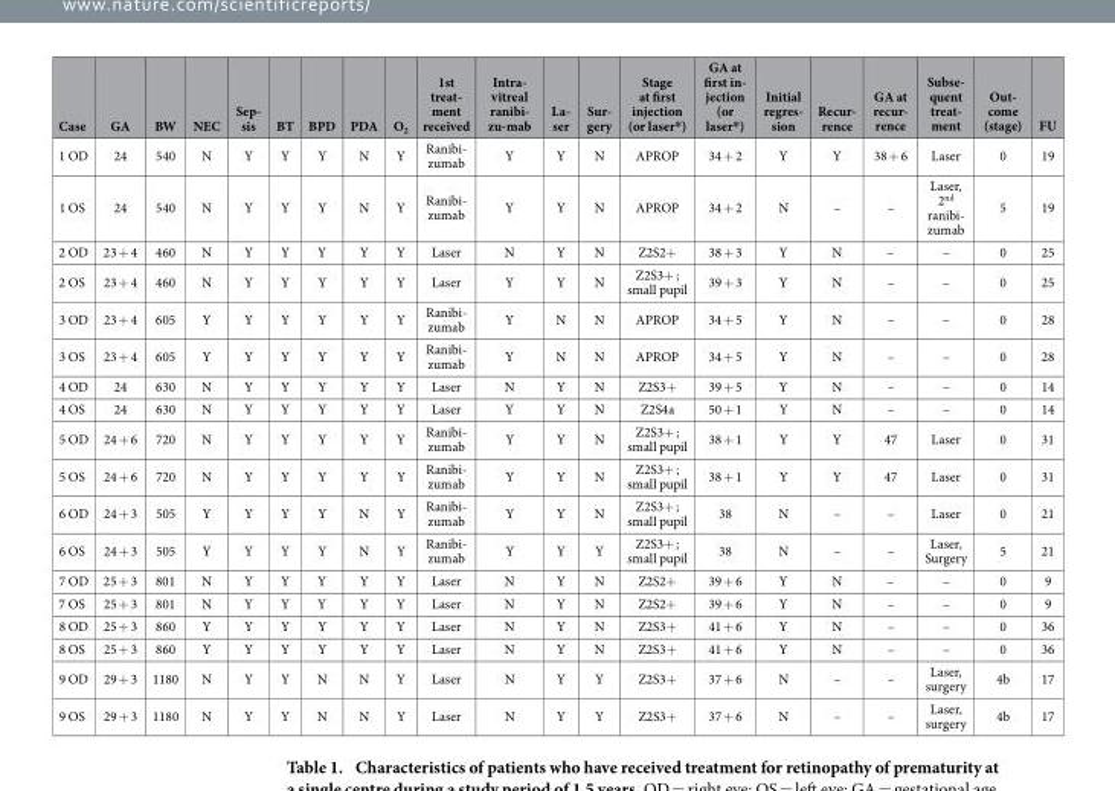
<table><thead><tr><td>Case</td><td>GA</td><td>BW</td><td>NEC</td><td>Sep- sis</td><td>BT</td><td>BPD</td><td>PDA</td><td>O<sub>2</sub></td><td>1st treat- ment received</td><td>Intra- vitreal ranibi- zu-mab</td><td>La- ser</td><td>Sur- gery</td><td>Stage at first injection (or laser*)</td><td>GA at first in- jection (or laser*)</td><td>Initial regres- sion</td><td>Recur- rence</td><td>GA at recur- rence</td><td>Subse- quent treat- ment</td><td>Out- come (stage)</td><td>FU</td></tr></thead><tbody><tr><td>1 OD</td><td>24</td><td>540</td><td>N</td><td>Y</td><td>Y</td><td>Y</td><td>N</td><td>Y</td><td>Ranibi- zumab</td><td>Y</td><td>Y</td><td>N</td><td>APROP</td><td>34 + 2</td><td>Y</td><td>Y</td><td>38 + 6</td><td>Laser</td><td>0</td><td>19</td></tr><tr><td>1 OS</td><td>24</td><td>540</td><td>N</td><td>Y</td><td>Y</td><td>Y</td><td>N</td><td>Y</td><td>Ranibi- zumab</td><td>Y</td><td>Y</td><td>N</td><td>APROP</td><td>34 + 2</td><td>N</td><td>–</td><td>–</td><td>Laser, 2nd ranibi- zumab</td><td>5</td><td>19</td></tr><tr><td>2 OD</td><td>23 + 4</td><td>460</td><td>N</td><td>Y</td><td>Y</td><td>Y</td><td>Y</td><td>Y</td><td>Laser</td><td>N</td><td>Y</td><td>N</td><td>Z2S2+</td><td>38 + 3</td><td>Y</td><td>N</td><td>–</td><td>–</td><td>0</td><td>25</td></tr><tr><td>2 OS</td><td>23 + 4</td><td>460</td><td>N</td><td>Y</td><td>Y</td><td>Y</td><td>Y</td><td>Y</td><td>Laser</td><td>Y</td><td>Y</td><td>N</td><td>Z2S3+ ; small pupil</td><td>39 + 3</td><td>Y</td><td>N</td><td>–</td><td>–</td><td>0</td><td>25</td></tr><tr><td>3 OD</td><td>23 + 4</td><td>605</td><td>Y</td><td>Y</td><td>Y</td><td>Y</td><td>Y</td><td>Y</td><td>Ranibi- zumab</td><td>Y</td><td>N</td><td>N</td><td>APROP</td><td>34 + 5</td><td>Y</td><td>N</td><td>–</td><td>–</td><td>0</td><td>28</td></tr><tr><td>3 OS</td><td>23 + 4</td><td>605</td><td>Y</td><td>Y</td><td>Y</td><td>Y</td><td>Y</td><td>Y</td><td>Ranibi- zumab</td><td>Y</td><td>N</td><td>N</td><td>APROP</td><td>34 + 5</td><td>Y</td><td>N</td><td>–</td><td>–</td><td>0</td><td>28</td></tr><tr><td>4 OD</td><td>24</td><td>630</td><td>N</td><td>Y</td><td>Y</td><td>Y</td><td>Y</td><td>Y</td><td>Laser</td><td>N</td><td>Y</td><td>N</td><td>Z2S3+</td><td>39 + 5</td><td>Y</td><td>N</td><td>–</td><td>–</td><td>0</td><td>14</td></tr><tr><td>4 OS</td><td>24</td><td>630</td><td>N</td><td>Y</td><td>Y</td><td>Y</td><td>Y</td><td>Y</td><td>Laser</td><td>Y</td><td>Y</td><td>N</td><td>Z2S4a</td><td>50 + 1</td><td>Y</td><td>N</td><td>–</td><td>–</td><td>0</td><td>14</td></tr><tr><td>5 OD</td><td>24 + 6</td><td>720</td><td>N</td><td>Y</td><td>Y</td><td>Y</td><td>Y</td><td>Y</td><td>Ranibi- zumab</td><td>Y</td><td>Y</td><td>N</td><td>Z2S3+ ; small pupil</td><td>38 + 1</td><td>Y</td><td>Y</td><td>47</td><td>Laser</td><td>0</td><td>31</td></tr><tr><td>5 OS</td><td>24 + 6</td><td>720</td><td>N</td><td>Y</td><td>Y</td><td>Y</td><td>Y</td><td>Y</td><td>Ranibi- zumab</td><td>Y</td><td>Y</td><td>N</td><td>Z2S3+ ; small pupil</td><td>38 + 1</td><td>Y</td><td>Y</td><td>47</td><td>Laser</td><td>0</td><td>31</td></tr><tr><td>6 OD</td><td>24 + 3</td><td>505</td><td>Y</td><td>Y</td><td>Y</td><td>Y</td><td>N</td><td>Y</td><td>Ranibi- zumab</td><td>Y</td><td>Y</td><td>N</td><td>Z2S3+ ; small pupil</td><td>38</td><td>N</td><td>–</td><td>–</td><td>Laser</td><td>0</td><td>21</td></tr><tr><td>6 OS</td><td>24 + 3</td><td>505</td><td>Y</td><td>Y</td><td>Y</td><td>Y</td><td>N</td><td>Y</td><td>Ranibi- zumab</td><td>Y</td><td>Y</td><td>Y</td><td>Z2S3+ ; small pupil</td><td>38</td><td>N</td><td>–</td><td>–</td><td>Laser, Surgery</td><td>5</td><td>21</td></tr><tr><td>7 OD</td><td>25 + 3</td><td>801</td><td>N</td><td>Y</td><td>Y</td><td>Y</td><td>Y</td><td>Y</td><td>Laser</td><td>N</td><td>Y</td><td>N</td><td>Z2S2+</td><td>39 + 6</td><td>Y</td><td>N</td><td>–</td><td>–</td><td>0</td><td>9</td></tr><tr><td>7 OS</td><td>25 + 3</td><td>801</td><td>N</td><td>Y</td><td>Y</td><td>Y</td><td>Y</td><td>Y</td><td>Laser</td><td>N</td><td>Y</td><td>N</td><td>Z2S2+</td><td>39 + 6</td><td>Y</td><td>N</td><td>–</td><td>–</td><td>0</td><td>9</td></tr><tr><td>8 OD</td><td>25 + 3</td><td>860</td><td>Y</td><td>Y</td><td>Y</td><td>Y</td><td>Y</td><td>Y</td><td>Laser</td><td>N</td><td>Y</td><td>N</td><td>Z2S3+</td><td>41 + 6</td><td>Y</td><td>N</td><td>–</td><td>–</td><td>0</td><td>36</td></tr><tr><td>8 OS</td><td>25 + 3</td><td>860</td><td>Y</td><td>Y</td><td>Y</td><td>Y</td><td>Y</td><td>Y</td><td>Laser</td><td>N</td><td>Y</td><td>N</td><td>Z2S3+</td><td>41 + 6</td><td>Y</td><td>N</td><td>–</td><td>–</td><td>0</td><td>36</td></tr><tr><td>9 OD</td><td>29 + 3</td><td>1180</td><td>N</td><td>Y</td><td>Y</td><td>N</td><td>N</td><td>Y</td><td>Laser</td><td>N</td><td>Y</td><td>Y</td><td>Z2S3+</td><td>37 + 6</td><td>N</td><td>–</td><td>–</td><td>Laser, surgery</td><td>4b</td><td>17</td></tr><tr><td>9 OS</td><td>29 + 3</td><td>1180</td><td>N</td><td>Y</td><td>Y</td><td>N</td><td>N</td><td>Y</td><td>Laser</td><td>N</td><td>Y</td><td>Y</td><td>Z2S3+</td><td>37 + 6</td><td>N</td><td>–</td><td>–</td><td>Laser, surgery</td><td>4b</td><td>17</td></tr></tbody></table>